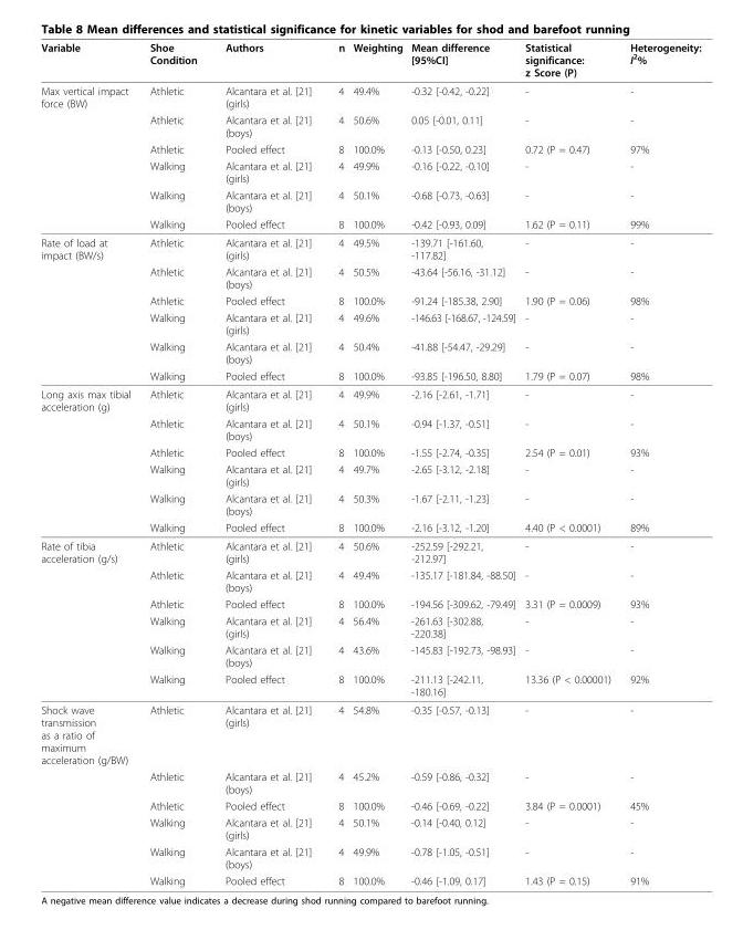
<table><thead><tr><td>Variable</td><td>Shoe Condition</td><td>Authors</td><td>n</td><td>Weighting</td><td>Mean difference [95%CI]</td><td>Statistical significance: z Score (P)</td><td>Heterogeneity: I<sup>2</sup>%</td></tr></thead><tbody><tr><td rowspan="6">Max vertical impact force (BW)</td><td>Athletic</td><td>Alcantara et al. [21] (girls)</td><td>4</td><td>49.4%</td><td>-0.32 [-0.42, -0.22]</td><td>-</td><td>-</td></tr><tr><td>Athletic</td><td>Alcantara et al. [21] (boys)</td><td>4</td><td>50.6%</td><td>0.05 [-0.01, 0.11]</td><td>-</td><td>-</td></tr><tr><td>Athletic</td><td>Pooled effect</td><td>8</td><td>100.0%</td><td>-0.13 [-0.50, 0.23]</td><td>0.72 (P = 0.47)</td><td>97%</td></tr><tr><td>Walking</td><td>Alcantara et al. [21] (girls)</td><td>4</td><td>49.9%</td><td>-0.16 [-0.22, -0.10]</td><td>-</td><td>-</td></tr><tr><td>Walking</td><td>Alcantara et al. [21] (boys)</td><td>4</td><td>50.1%</td><td>-0.68 [-0.73, -0.63]</td><td>-</td><td>-</td></tr><tr><td>Walking</td><td>Pooled effect</td><td>8</td><td>100.0%</td><td>-0.42 [-0.93, 0.09]</td><td>1.62 (P = 0.11)</td><td>99%</td></tr><tr><td rowspan="6">Rate of load at impact (BW/s)</td><td>Athletic</td><td>Alcantara et al. [21] (girls)</td><td>4</td><td>49.5%</td><td>-139.71 [-161.60, -117.82]</td><td>-</td><td>-</td></tr><tr><td>Athletic</td><td>Alcantara et al. [21] (boys)</td><td>4</td><td>50.5%</td><td>-43.64 [-56.16, -31.12]</td><td>-</td><td>-</td></tr><tr><td>Athletic</td><td>Pooled effect</td><td>8</td><td>100.0%</td><td>-91.24 [-185.38, 2.90]</td><td>1.90 (P = 0.06)</td><td>98%</td></tr><tr><td>Walking</td><td>Alcantara et al. [21] (girls)</td><td>4</td><td>49.6%</td><td>-146.63 [-168.67, -124.59]</td><td>-</td><td>-</td></tr><tr><td>Walking</td><td>Alcantara et al. [21] (boys)</td><td>4</td><td>50.4%</td><td>-41.88 [-54.47, -29.29]</td><td>-</td><td>-</td></tr><tr><td>Walking</td><td>Pooled effect</td><td>8</td><td>100.0%</td><td>-93.85 [-196.50, 8.80]</td><td>1.79 (P = 0.07)</td><td>98%</td></tr><tr><td rowspan="6">Long axis max tibial acceleration (g)</td><td>Athletic</td><td>Alcantara et al. [21] (girls)</td><td>4</td><td>49.9%</td><td>-2.16 [-2.61, -1.71]</td><td>-</td><td>-</td></tr><tr><td>Athletic</td><td>Alcantara et al. [21] (boys)</td><td>4</td><td>50.1%</td><td>-0.94 [-1.37, -0.51]</td><td>-</td><td>-</td></tr><tr><td>Athletic</td><td>Pooled effect</td><td>8</td><td>100.0%</td><td>-1.55 [-2.74, -0.35]</td><td>2.54 (P = 0.01)</td><td>93%</td></tr><tr><td>Walking</td><td>Alcantara et al. [21] (girls)</td><td>4</td><td>49.7%</td><td>-2.65 [-3.12, -2.18]</td><td>-</td><td>-</td></tr><tr><td>Walking</td><td>Alcantara et al. [21] (boys)</td><td>4</td><td>50.3%</td><td>-1.67 [-2.11, -1.23]</td><td>-</td><td>-</td></tr><tr><td>Walking</td><td>Pooled effect</td><td>8</td><td>100.0%</td><td>-2.16 [-3.12, -1.20]</td><td>4.40 (P &lt; 0.0001)</td><td>89%</td></tr><tr><td rowspan="6">Rate of tibia acceleration (g/s)</td><td>Athletic</td><td>Alcantara et al. [21] (girls)</td><td>4</td><td>50.6%</td><td>-252.59 [-292.21, -212.97]</td><td>-</td><td>-</td></tr><tr><td>Athletic</td><td>Alcantara et al. [21] (boys)</td><td>4</td><td>49.4%</td><td>-135.17 [-181.84, -88.50]</td><td>-</td><td>-</td></tr><tr><td>Athletic</td><td>Pooled effect</td><td>8</td><td>100.0%</td><td>-194.56 [-309.62, -79.49]</td><td>3.31 (P = 0.0009)</td><td>93%</td></tr><tr><td>Walking</td><td>Alcantara et al. [21] (girls)</td><td>4</td><td>56.4%</td><td>-261.63 [-302.88, -220.38]</td><td>-</td><td>-</td></tr><tr><td>Walking</td><td>Alcantara et al. [21] (boys)</td><td>4</td><td>43.6%</td><td>-145.83 [-192.73, -98.93]</td><td>-</td><td>-</td></tr><tr><td>Walking</td><td>Pooled effect</td><td>8</td><td>100.0%</td><td>-211.13 [-242.11, -180.16]</td><td>13.36 (P &lt; 0.00001)</td><td>92%</td></tr><tr><td rowspan="6">Shock wave transmission as a ratio of maximum acceleration (g/BW)</td><td>Athletic</td><td>Alcantara et al. [21] (girls)</td><td>4</td><td>54.8%</td><td>-0.35 [-0.57, -0.13]</td><td>-</td><td>-</td></tr><tr><td>Athletic</td><td>Alcantara et al. [21] (boys)</td><td>4</td><td>45.2%</td><td>-0.59 [-0.86, -0.32]</td><td>-</td><td>-</td></tr><tr><td>Athletic</td><td>Pooled effect</td><td>8</td><td>100.0%</td><td>-0.46 [-0.69, -0.22]</td><td>3.84 (P = 0.0001)</td><td>45%</td></tr><tr><td>Walking</td><td>Alcantara et al. [21] (girls)</td><td>4</td><td>50.1%</td><td>-0.14 [-0.40, 0.12]</td><td>-</td><td>-</td></tr><tr><td>Walking</td><td>Alcantara et al. [21] (boys)</td><td>4</td><td>49.9%</td><td>-0.78 [-1.05, -0.51]</td><td>-</td><td>-</td></tr><tr><td>Walking</td><td>Pooled effect</td><td>8</td><td>100.0%</td><td>-0.46 [-1.09, 0.17]</td><td>1.43 (P = 0.15)</td><td>91%</td></tr></tbody></table>